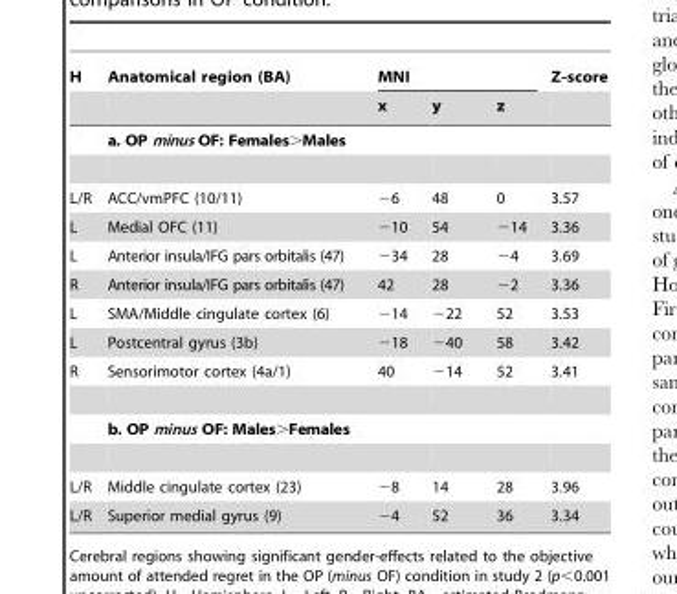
<table><thead><tr><td rowspan="2">H</td><td rowspan="2">Anatomical region (BA)</td><td colspan="3">MNI</td><td rowspan="2">Z-score</td></tr><tr><td>x</td><td>y</td><td>z</td></tr></thead><tbody><tr><td></td><td>a. OP minus OF: Females&gt;Males</td><td></td><td></td><td></td><td></td></tr><tr><td>L/R</td><td>ACC/vmPFC (10/11)</td><td>−6</td><td>48</td><td>0</td><td>3.57</td></tr><tr><td>L</td><td>Medial OFC (11)</td><td>−10</td><td>54</td><td>−14</td><td>3.36</td></tr><tr><td>L</td><td>Anterior insula/IFG pars orbitalis (47)</td><td>−34</td><td>28</td><td>−4</td><td>3.69</td></tr><tr><td>R</td><td>Anterior insula/IFG pars orbitalis (47)</td><td>42</td><td>28</td><td>−2</td><td>3.36</td></tr><tr><td>L</td><td>SMA/Middle cingulate cortex (6)</td><td>−14</td><td>−22</td><td>52</td><td>3.53</td></tr><tr><td>L</td><td>Postcentral gyrus (3b)</td><td>−18</td><td>−40</td><td>58</td><td>3.42</td></tr><tr><td rowspan="2">R</td><td>Sensorimotor cortex (4a/1)</td><td>40</td><td>−14</td><td>52</td><td>3.41</td></tr><tr><td>b. OP minus OF: Males&gt;Females</td><td></td><td></td><td></td><td></td></tr><tr><td>L/R</td><td>Middle cingulate cortex (23)</td><td>−8</td><td>14</td><td>28</td><td>3.96</td></tr><tr><td>L/R</td><td>Superior medial gyrus (9)</td><td>−4</td><td>52</td><td>36</td><td>3.34</td></tr></tbody></table>